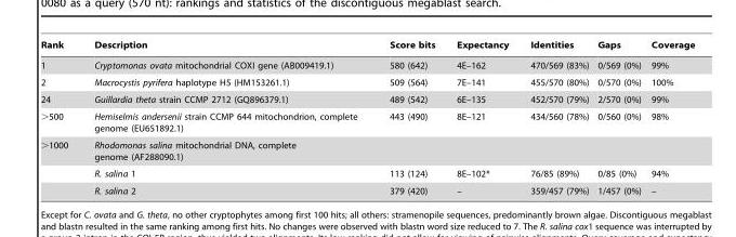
<table><thead><tr><td>Rank</td><td>Description</td><td>Score bits</td><td>Expectancy</td><td>Identities</td><td>Gaps</td><td>Coverage</td></tr></thead><tbody><tr><td>1</td><td>Cryptomonas ovata mitochondrial COXI gene (AB009419.1)</td><td>580 (642)</td><td>4E–162</td><td>470/569 (83%)</td><td>0/569 (0%)</td><td>99%</td></tr><tr><td>2</td><td>Macrocystis pyrifera haplotype H5 (HM153261.1)</td><td>509 (564)</td><td>7E–141</td><td>455/570 (80%)</td><td>0/570 (0%)</td><td>100%</td></tr><tr><td>24</td><td>Guillardia theta strain CCMP 2712 (GQ896379.1)</td><td>489 (542)</td><td>6E–135</td><td>452/570 (79%)</td><td>2/570 (0%)</td><td>99%</td></tr><tr><td>&gt;500</td><td>Hemiselmis andersenii strain CCMP 644 mitochondrion, complete genome (EU651892.1)</td><td>443 (490)</td><td>8E–121</td><td>434/560 (78%)</td><td>0/560 (0%)</td><td>98%</td></tr><tr><td rowspan="3">&gt;1000</td><td colspan="6">Rhodomonas salina mitochondrial DNA, complete genome (AF288090.1)</td></tr><tr><td>R. salina 1</td><td>113 (124)</td><td>8E–102*</td><td>76/85 (89%)</td><td>0/85 (0%)</td><td>94%</td></tr><tr><td>R. salina 2</td><td>379 (420)</td><td>–</td><td>359/457 (79%)</td><td>1/457 (0%)</td><td>–</td></tr></tbody></table>